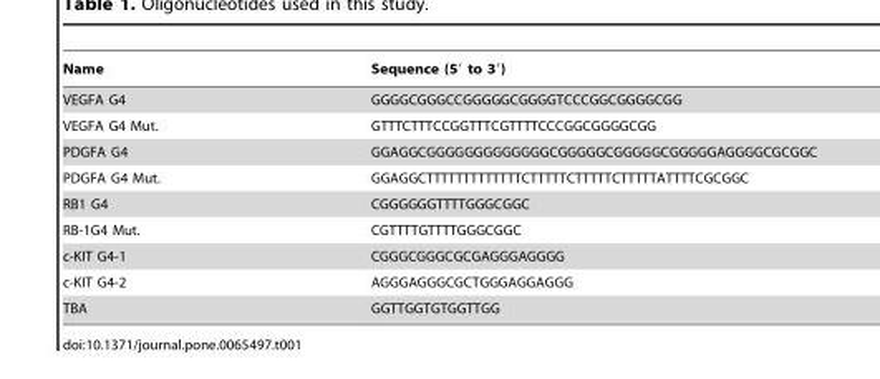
<table><thead><tr><td>Name</td><td>Sequence (5′ to 3′)</td></tr></thead><tbody><tr><td>VEGFA G4</td><td>GGGGCGGGCCGGGGGCGGGGTCCCGGCGGGGCGG</td></tr><tr><td>VEGFA G4 Mut.</td><td>GTTTCTTTCCGGTTTCGTTTTCCCGGCGGGGCGG</td></tr><tr><td>PDGFA G4</td><td>GGAGGCGGGGGGGGGGGGGCGGGGGCGGGGGCGGGGGAGGGGCGCGGC</td></tr><tr><td>PDGFA G4 Mut.</td><td>GGAGGCTTTTTTTTTTTTTCTTTTTCTTTTTCTTTTTATTTTCGCGGC</td></tr><tr><td>RB1 G4</td><td>CGGGGGGTTTTGGGCGGC</td></tr><tr><td>RB-1G4 Mut.</td><td>CGTTTTGTTTTGGGCGGC</td></tr><tr><td>c-KIT G4-1</td><td>CGGGCGGGCGCGAGGGAGGGG</td></tr><tr><td>c-KIT G4-2</td><td>AGGGAGGGCGCTGGGAGGAGGG</td></tr><tr><td>TBA</td><td>GGTTGGTGTGGTTGG</td></tr></tbody></table>